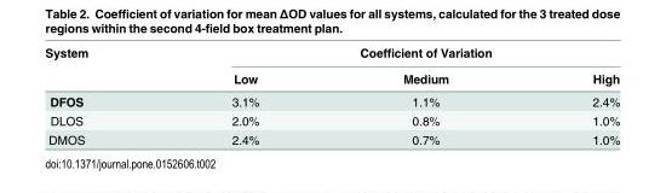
<table><thead><tr><td rowspan="2">System</td><td colspan="3">Coefficient of Variation</td></tr><tr><td>Low</td><td>Medium</td><td>High</td></tr></thead><tbody><tr><td>DFOS</td><td>3.1%</td><td>1.1%</td><td>2.4%</td></tr><tr><td>DLOS</td><td>2.0%</td><td>0.8%</td><td>1.0%</td></tr><tr><td>DMOS</td><td>2.4%</td><td>0.7%</td><td>1.0%</td></tr></tbody></table>